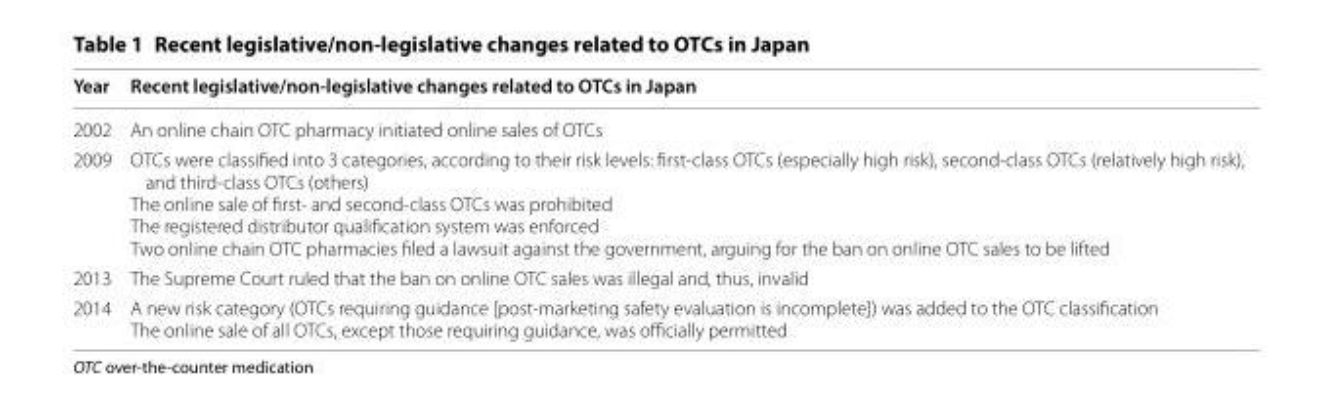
<table><thead><tr><td>Year</td><td>Recent legislative/non‑legislative changes related to OTCs in Japan</td></tr></thead><tbody><tr><td>2002</td><td>An online chain OTC pharmacy initiated online sales of OTCs</td></tr><tr><td>2009</td><td>OTCs were classified into 3 categories, according to their risk levels: first-class OTCs (especially high risk), second-class OTCs (relatively high risk), and third-class OTCs (others) The online sale of first- and second-class OTCs was prohibited The registered distributor qualification system was enforced Two online chain OTC pharmacies filed a lawsuit against the government, arguing for the ban on online OTC sales to be lifted</td></tr><tr><td>2013</td><td>The Supreme Court ruled that the ban on online OTC sales was illegal and, thus, invalid</td></tr><tr><td>2014</td><td>A new risk category (OTCs requiring guidance [post-marketing safety evaluation is incomplete]) was added to the OTC classification The online sale of all OTCs, except those requiring guidance, was officially permitted</td></tr></tbody></table>